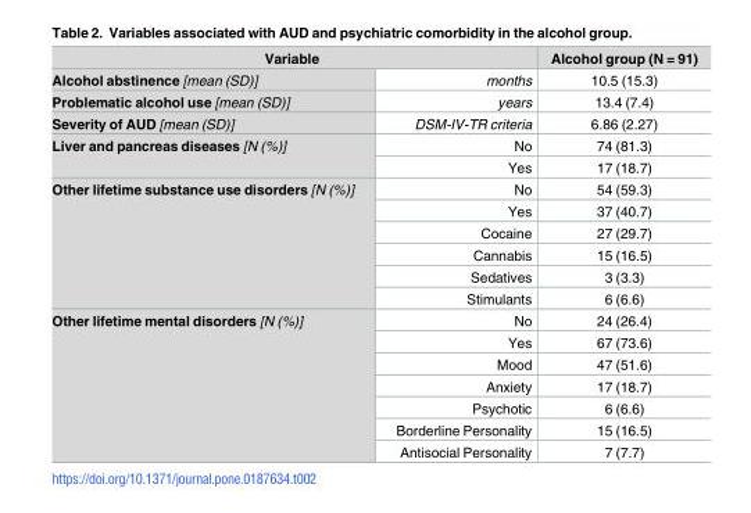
<table><thead><tr><td colspan="2">Variable</td><td rowspan="2">Alcohol group (N = 91) 10.5 (15.3)</td></tr><tr><td>Alcohol abstinence [mean (SD)]</td><td>months</td></tr></thead><tbody><tr><td>Problematic alcohol use [mean (SD)]</td><td>years</td><td>13.4 (7.4)</td></tr><tr><td>Severity of AUD [mean (SD)]</td><td>DSM-IV-TR criteria</td><td>6.86 (2.27)</td></tr><tr><td rowspan="2">Liver and pancreas diseases [N (%)]</td><td>No</td><td>74 (81.3)</td></tr><tr><td>Yes</td><td>17 (18.7)</td></tr><tr><td rowspan="6">Other lifetime substance use disorders [N (%)]</td><td>No</td><td>54 (59.3)</td></tr><tr><td>Yes</td><td>37 (40.7)</td></tr><tr><td>Cocaine</td><td>27 (29.7)</td></tr><tr><td>Cannabis</td><td>15 (16.5)</td></tr><tr><td>Sedatives</td><td>3 (3.3)</td></tr><tr><td>Stimulants</td><td>6 (6.6)</td></tr><tr><td rowspan="7">Other lifetime mental disorders [N (%)]</td><td>No</td><td>24 (26.4)</td></tr><tr><td>Yes</td><td>67 (73.6)</td></tr><tr><td>Mood</td><td>47 (51.6)</td></tr><tr><td>Anxiety</td><td>17 (18.7)</td></tr><tr><td>Psychotic</td><td>6 (6.6)</td></tr><tr><td>Borderline Personality</td><td>15 (16.5)</td></tr><tr><td>Antisocial Personality</td><td>7 (7.7)</td></tr></tbody></table>